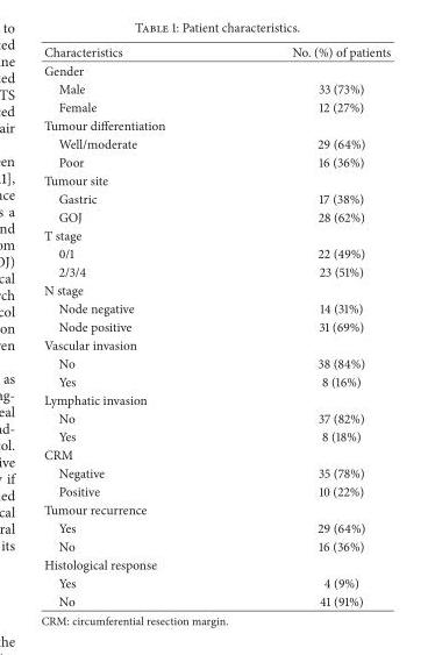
<table><thead><tr><td>Characteristics</td><td>No. (%) of patients</td></tr></thead><tbody><tr><td colspan="2">Gender</td></tr><tr><td>Male</td><td>33 (73%)</td></tr><tr><td>Female</td><td>12 (27%)</td></tr><tr><td colspan="2">Tumour differentiation</td></tr><tr><td>Well/moderate</td><td>29 (64%)</td></tr><tr><td>Poor</td><td>16 (36%)</td></tr><tr><td colspan="2">Tumour site</td></tr><tr><td>Gastric</td><td>17 (38%)</td></tr><tr><td>GOJ</td><td>28 (62%)</td></tr><tr><td colspan="2">T stage</td></tr><tr><td>0/1</td><td>22 (49%)</td></tr><tr><td>2/3/4</td><td>23 (51%)</td></tr><tr><td colspan="2">N stage</td></tr><tr><td>Node negative</td><td>14 (31%)</td></tr><tr><td>Node positive</td><td>31 (69%)</td></tr><tr><td colspan="2">Vascular invasion</td></tr><tr><td>No</td><td>38 (84%)</td></tr><tr><td>Yes</td><td>8 (16%)</td></tr><tr><td colspan="2">Lymphatic invasion</td></tr><tr><td>No</td><td>37 (82%)</td></tr><tr><td>Yes</td><td>8 (18%)</td></tr><tr><td colspan="2">CRM</td></tr><tr><td>Negative</td><td>35 (78%)</td></tr><tr><td>Positive</td><td>10 (22%)</td></tr><tr><td colspan="2">Tumour recurrence</td></tr><tr><td>Yes</td><td>29 (64%)</td></tr><tr><td>No</td><td>16 (36%)</td></tr><tr><td colspan="2">Histological response</td></tr><tr><td>Yes</td><td>4 (9%)</td></tr><tr><td>No</td><td>41 (91%)</td></tr></tbody></table>